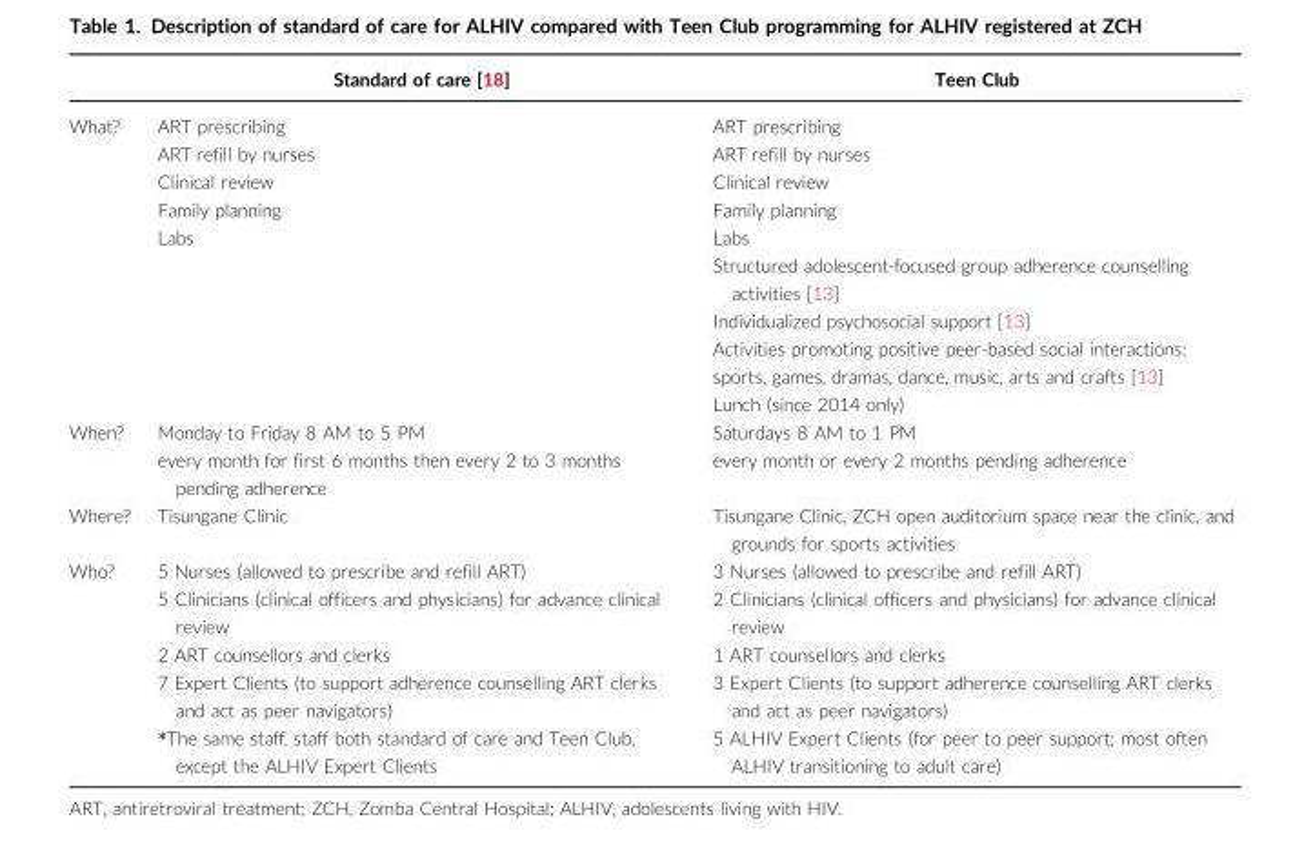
<table><thead><tr><td></td><td>Standard of care [18]</td><td>Teen Club</td></tr></thead><tbody><tr><td>What?</td><td>ART prescribing ART refill by nurses Clinical review Family planning Labs</td><td>ART prescribing ART refill by nurses Clinical review Family planning Labs Structured adolescent-focused group adherence counselling activities [13] Individualized psychosocial support [13] Activities promoting positive peer-based social interactions: sports, games, dramas, dance, music, arts and crafts [13] Lunch (since 2014 only)</td></tr><tr><td>When?</td><td>Monday to Friday 8 AM to 5 PM every month for first 6 months then every 2 to 3 months pending adherence</td><td>Saturdays 8 AM to 1 PM every month or every 2 months pending adherence</td></tr><tr><td>Where?</td><td>Tisungane Clinic</td><td>Tisungane Clinic, ZCH open auditorium space near the clinic, and grounds for sports activities</td></tr><tr><td>Who?</td><td>5 Nurses (allowed to prescribe and refill ART) 5 Clinicians (clinical officers and physicians) for advance clinical review 2 ART counsellors and clerks 7 Expert Clients (to support adherence counselling ART clerks and act as peer navigators) *The same staff, staff both standard of care and Teen Club, except the ALHIV Expert Clients</td><td>3 Nurses (allowed to prescribe and refill ART) 2 Clinicians (clinical officers and physicians) for advance clinical review 1 ART counsellors and clerks 3 Expert Clients (to support adherence counselling ART clerks and act as peer navigators) 5 ALHIV Expert Clients (for peer to peer support; most often ALHIV transitioning to adult care)</td></tr></tbody></table>